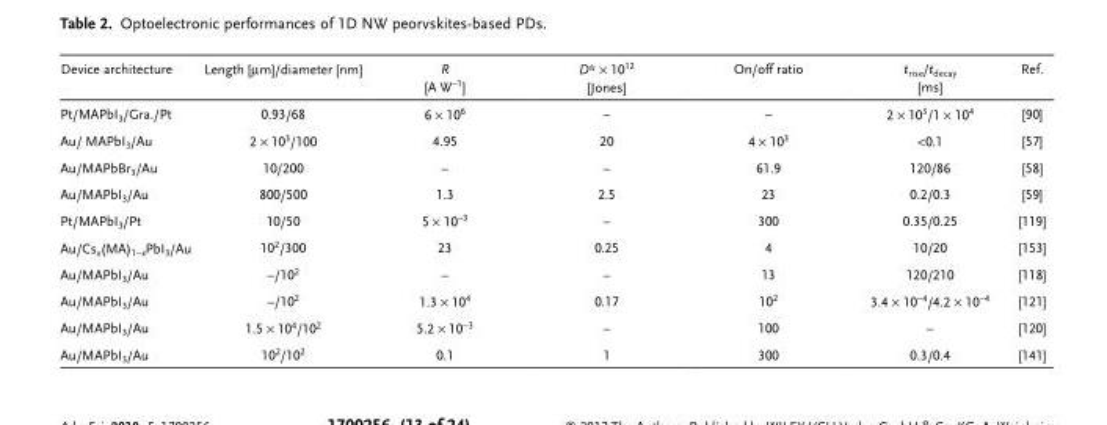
<table><thead><tr><td>Device architecture</td><td>Length [μm]/diameter [nm]</td><td>R [A W<sup>−1</sup>]</td><td>D* × 10<sup>12</sup> [Jones]</td><td>On/off ratio</td><td>t<sub>rise</sub>/t<sub>decay</sub> [ms]</td><td>Ref.</td></tr></thead><tbody><tr><td>Pt/MAPbI<sub>3</sub>/Gra./Pt</td><td>0.93/68</td><td>6 × 10<sup>6</sup></td><td>–</td><td>–</td><td>2 × 10<sup>3</sup>/1 × 10<sup>4</sup></td><td>[90]</td></tr><tr><td>Au/ MAPbI<sub>3</sub>/Au</td><td>2 × 10<sup>3</sup>/100</td><td>4.95</td><td>20</td><td>4 × 10<sup>3</sup></td><td>&lt;0.1</td><td>[57]</td></tr><tr><td>Au/MAPbBr<sub>3</sub>/Au</td><td>10/200</td><td>–</td><td>–</td><td>61.9</td><td>120/86</td><td>[58]</td></tr><tr><td>Au/MAPbI<sub>3</sub>/Au</td><td>800/500</td><td>1.3</td><td>2.5</td><td>23</td><td>0.2/0.3</td><td>[59]</td></tr><tr><td>Pt/MAPbI<sub>3</sub>/Pt</td><td>10/50</td><td>5 × 10<sup>−3</sup></td><td>–</td><td>300</td><td>0.35/0.25</td><td>[119]</td></tr><tr><td>Au/Cs<sub>x</sub>(MA)<sub>1−x</sub>PbI<sub>3</sub>/Au</td><td>10<sup>2</sup>/300</td><td>23</td><td>0.25</td><td>4</td><td>10/20</td><td>[153]</td></tr><tr><td>Au/MAPbI<sub>3</sub>/Au</td><td>–/10<sup>2</sup></td><td>–</td><td>–</td><td>13</td><td>120/210</td><td>[118]</td></tr><tr><td>Au/MAPbI<sub>3</sub>/Au</td><td>–/10<sup>2</sup></td><td>1.3 × 10<sup>4</sup></td><td>0.17</td><td>10<sup>2</sup></td><td>3.4 × 10<sup>−4</sup>/4.2 × 10<sup>−4</sup></td><td>[121]</td></tr><tr><td>Au/MAPbI<sub>3</sub>/Au</td><td>1.5 × 10<sup>4</sup>/10<sup>2</sup></td><td>5.2 × 10<sup>−3</sup></td><td>–</td><td>100</td><td>–</td><td>[120]</td></tr><tr><td>Au/MAPbI<sub>3</sub>/Au</td><td>10<sup>2</sup>/10<sup>2</sup></td><td>0.1</td><td>1</td><td>300</td><td>0.3/0.4</td><td>[141]</td></tr></tbody></table>